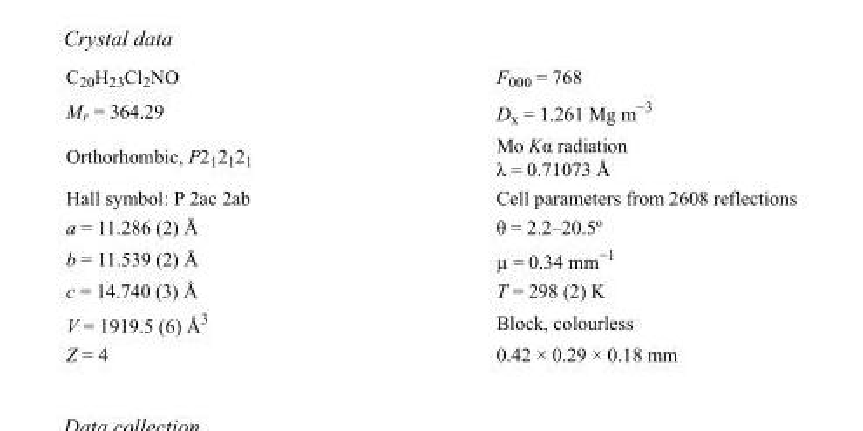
<table><tbody><tr><td>C<sub>20</sub>H<sub>23</sub>Cl<sub>2</sub>NO</td><td>F000 = 768</td></tr><tr><td>M<sub>r</sub> = 364.29</td><td>D<sub>x</sub> = 1.261 Mg m<sup>−3</sup></td></tr><tr><td>Orthorhombic, P2<sub>1</sub>2<sub>1</sub>2<sub>1</sub></td><td>Mo Kα radiation λ = 0.71073 Å</td></tr><tr><td>Hall symbol: P 2ac 2ab</td><td>Cell parameters from 2608 reflections</td></tr><tr><td>a = 11.286 (2) Å</td><td>θ = 2.2–20.5º</td></tr><tr><td>b = 11.539 (2) Å</td><td>µ = 0.34 mm<sup>−1</sup></td></tr><tr><td>c = 14.740 (3) Å</td><td>T = 298 (2) K</td></tr><tr><td>V = 1919.5 (6) Å<sup>3</sup></td><td>Block, colourless</td></tr><tr><td>Z = 4</td><td>0.42 × 0.29 × 0.18 mm</td></tr></tbody></table>